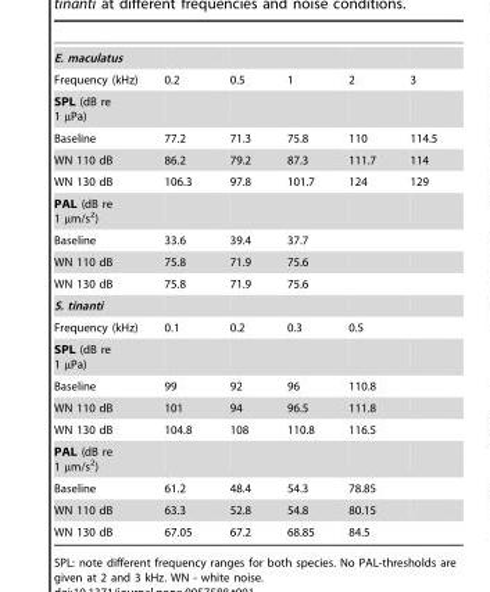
<table><tbody><tr><td colspan="6">E. maculatus</td></tr><tr><td>Frequency (kHz)</td><td>0.2</td><td>0.5</td><td>1</td><td>2</td><td>3</td></tr><tr><td colspan="6">SPL (dB re 1 µPa)</td></tr><tr><td>Baseline</td><td>77.2</td><td>71.3</td><td>75.8</td><td>110</td><td>114.5</td></tr><tr><td>WN 110 dB</td><td>86.2</td><td>79.2</td><td>87.3</td><td>111.7</td><td>114</td></tr><tr><td>WN 130 dB</td><td>106.3</td><td>97.8</td><td>101.7</td><td>124</td><td>129</td></tr><tr><td colspan="6">PAL (dB re 1 µm/s<sup>2</sup>)</td></tr><tr><td>Baseline</td><td>33.6</td><td>39.4</td><td>37.7</td><td></td><td></td></tr><tr><td>WN 110 dB</td><td>75.8</td><td>71.9</td><td>75.6</td><td></td><td></td></tr><tr><td>WN 130 dB</td><td>75.8</td><td>71.9</td><td>75.6</td><td></td><td></td></tr><tr><td colspan="6">S. tinanti</td></tr><tr><td>Frequency (kHz)</td><td>0.1</td><td>0.2</td><td>0.3</td><td>0.5</td><td></td></tr><tr><td colspan="6">SPL (dB re 1 µPa)</td></tr><tr><td>Baseline</td><td>99</td><td>92</td><td>96</td><td>110.8</td><td></td></tr><tr><td>WN 110 dB</td><td>101</td><td>94</td><td>96.5</td><td>111.8</td><td></td></tr><tr><td>WN 130 dB</td><td>104.8</td><td>108</td><td>110.8</td><td>116.5</td><td></td></tr><tr><td colspan="6">PAL (dB re 1 µm/s<sup>2</sup>)</td></tr><tr><td>Baseline</td><td>61.2</td><td>48.4</td><td>54.3</td><td>78.85</td><td></td></tr><tr><td>WN 110 dB</td><td>63.3</td><td>52.8</td><td>54.8</td><td>80.15</td><td></td></tr><tr><td>WN 130 dB</td><td>67.05</td><td>67.2</td><td>68.85</td><td>84.5</td><td></td></tr></tbody></table>